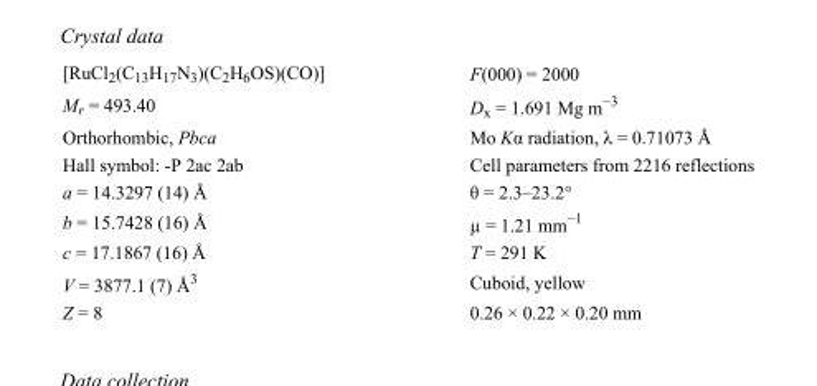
<table><tbody><tr><td>[RuCl<sub>2</sub>(C<sub>13</sub>H<sub>17</sub>N<sub>3</sub>)(C<sub>2</sub>H<sub>6</sub>OS)(CO)]</td><td>F(000) = 2000</td></tr><tr><td>M<sub>r</sub> = 493.40</td><td>D<sub>x</sub> = 1.691 Mg m<sup>−3</sup></td></tr><tr><td>Orthorhombic, Pbca</td><td>Mo Kα radiation, λ = 0.71073 Å</td></tr><tr><td>Hall symbol: -P 2ac 2ab</td><td>Cell parameters from 2216 reflections</td></tr><tr><td>a = 14.3297 (14) Å</td><td>θ = 2.3–23.2°</td></tr><tr><td>b = 15.7428 (16) Å</td><td>µ = 1.21 mm<sup>−1</sup></td></tr><tr><td>c = 17.1867 (16) Å</td><td>T = 291 K</td></tr><tr><td>V = 3877.1 (7) Å<sup>3</sup></td><td>Cuboid, yellow</td></tr><tr><td>Z = 8</td><td>0.26 × 0.22 × 0.20 mm</td></tr></tbody></table>